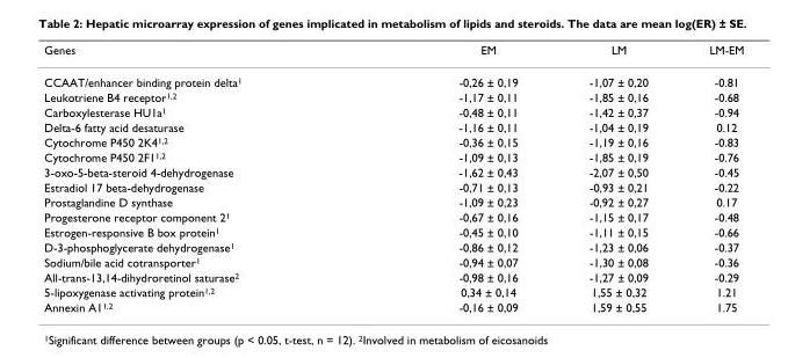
<table><thead><tr><td>Genes</td><td>EM</td><td>LM</td><td>LM-EM</td></tr></thead><tbody><tr><td>CCAAT/enhancer binding protein delta<sup>1</sup></td><td>-0,26 ± 0,19</td><td>-1,07 ± 0,20</td><td>-0.81</td></tr><tr><td>Leukotriene B4 receptor<sup>1,2</sup></td><td>-1,17 ± 0,11</td><td>-1,85 ± 0,16</td><td>-0.68</td></tr><tr><td>Carboxylesterase HU1a<sup>1</sup></td><td>-0,48 ± 0,11</td><td>-1,42 ± 0,37</td><td>-0.94</td></tr><tr><td>Delta-6 fatty acid desaturase</td><td>-1,16 ± 0,11</td><td>-1,04 ± 0,19</td><td>0.12</td></tr><tr><td>Cytochrome P450 2K4<sup>1,2</sup></td><td>-0,36 ± 0,15</td><td>-1,19 ± 0,16</td><td>-0.83</td></tr><tr><td>Cytochrome P450 2F1<sup>1,2</sup></td><td>-1,09 ± 0,13</td><td>-1,85 ± 0,19</td><td>-0.76</td></tr><tr><td>3-oxo-5-beta-steroid 4-dehydrogenase</td><td>-1,62 ± 0,43</td><td>-2,07 ± 0,50</td><td>-0.45</td></tr><tr><td>Estradiol 17 beta-dehydrogenase</td><td>-0,71 ± 0,13</td><td>-0,93 ± 0,21</td><td>-0.22</td></tr><tr><td>Prostaglandine D synthase</td><td>-1,09 ± 0,23</td><td>-0,92 ± 0,27</td><td>0.17</td></tr><tr><td>Progesterone receptor component 2<sup>1</sup></td><td>-0,67 ± 0,16</td><td>-1,15 ± 0,17</td><td>-0.48</td></tr><tr><td>Estrogen-responsive B box protein<sup>1</sup></td><td>-0,45 ± 0,10</td><td>-1,11 ± 0,15</td><td>-0.66</td></tr><tr><td>D-3-phosphoglycerate dehydrogenase<sup>1</sup></td><td>-0,86 ± 0,12</td><td>-1,23 ± 0,06</td><td>-0.37</td></tr><tr><td>Sodium/bile acid cotransporter<sup>1</sup></td><td>-0,94 ± 0,07</td><td>-1,30 ± 0,08</td><td>-0.36</td></tr><tr><td>All-trans-13,14-dihydroretinol saturase<sup>2</sup></td><td>-0,98 ± 0,16</td><td>-1,27 ± 0,09</td><td>-0.29</td></tr><tr><td>5-lipoxygenase activating protein<sup>1,2</sup></td><td>0,34 ± 0,14</td><td>1,55 ± 0,32</td><td>1.21</td></tr><tr><td>Annexin A1<sup>1,2</sup></td><td>-0,16 ± 0,09</td><td>1,59 ± 0,55</td><td>1.75</td></tr></tbody></table>